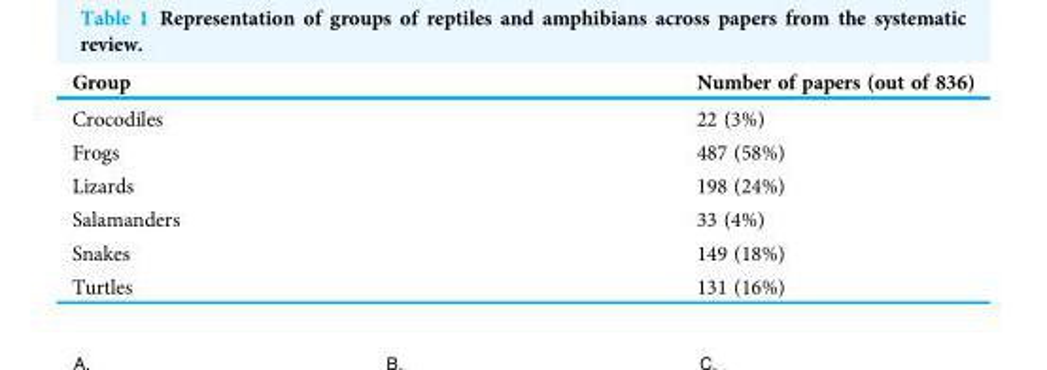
<table><thead><tr><td>Group</td><td>Number of papers (out of 836)</td></tr></thead><tbody><tr><td>Crocodiles</td><td>22 (3%)</td></tr><tr><td>Frogs</td><td>487 (58%)</td></tr><tr><td>Lizards</td><td>198 (24%)</td></tr><tr><td>Salamanders</td><td>33 (4%)</td></tr><tr><td>Snakes</td><td>149 (18%)</td></tr><tr><td>Turtles</td><td>131 (16%)</td></tr></tbody></table>